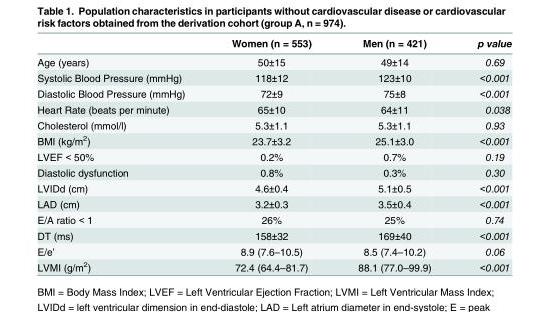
<table><thead><tr><td></td><td>Women (n = 553)</td><td>Men (n = 421)</td><td>p value</td></tr></thead><tbody><tr><td>Age (years)</td><td>50±15</td><td>49±14</td><td>0.69</td></tr><tr><td>Systolic Blood Pressure (mmHg)</td><td>118±12</td><td>123±10</td><td>&lt;0.001</td></tr><tr><td>Diastolic Blood Pressure (mmHg)</td><td>72±9</td><td>75±8</td><td>&lt;0.001</td></tr><tr><td>Heart Rate (beats per minute)</td><td>65±10</td><td>64±11</td><td>0.038</td></tr><tr><td>Cholesterol (mmol/l)</td><td>5.3±1.1</td><td>5.3±1.1</td><td>0.93</td></tr><tr><td>BMI (kg/m<sup>2</sup>)</td><td>23.7±3.2</td><td>25.1±3.0</td><td>&lt;0.001</td></tr><tr><td>LVEF &lt; 50%</td><td>0.2%</td><td>0.7%</td><td>0.19</td></tr><tr><td>Diastolic dysfunction</td><td>0.8%</td><td>0.3%</td><td>0.30</td></tr><tr><td>LVIDd (cm)</td><td>4.6±0.4</td><td>5.1±0.5</td><td>&lt;0.001</td></tr><tr><td>LAD (cm)</td><td>3.2±0.3</td><td>3.5±0.4</td><td>&lt;0.001</td></tr><tr><td>E/A ratio &lt; 1</td><td>26%</td><td>25%</td><td>0.74</td></tr><tr><td>DT (ms)</td><td>158±32</td><td>169±40</td><td>&lt;0.001</td></tr><tr><td>E/e’</td><td>8.9 (7.6–10.5)</td><td>8.5 (7.4–10.2)</td><td>0.06</td></tr><tr><td>LVMI (g/m<sup>2</sup>)</td><td>72.4 (64.4–81.7)</td><td>88.1 (77.0–99.9)</td><td>&lt;0.001</td></tr></tbody></table>